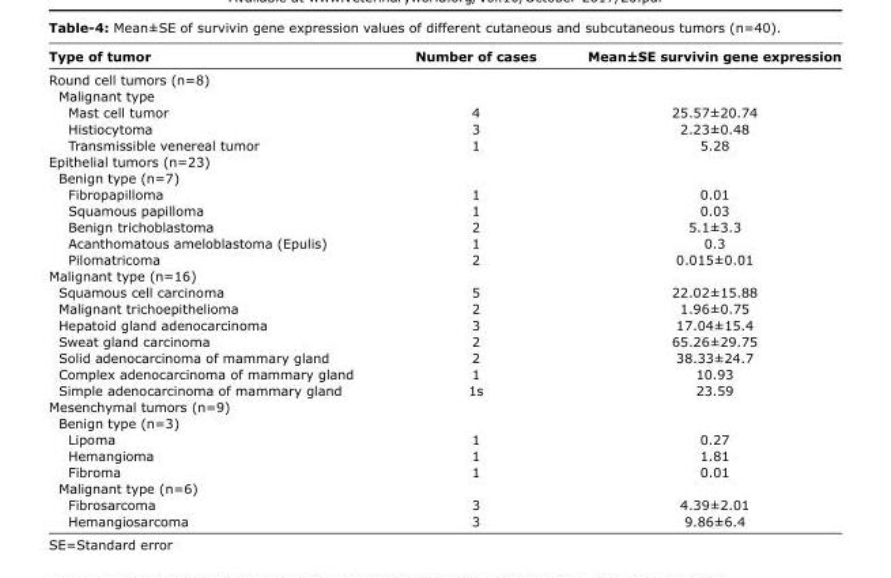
<table><thead><tr><td>Type of tumor</td><td>Number of cases</td><td>Mean±SE survivin gene expression</td></tr></thead><tbody><tr><td colspan="3">Round cell tumors (n=8)</td></tr><tr><td colspan="3">Malignant type</td></tr><tr><td>Mast cell tumor</td><td>4</td><td>25.57±20.74</td></tr><tr><td>Histiocytoma</td><td>3</td><td>2.23±0.48</td></tr><tr><td>Transmissible venereal tumor</td><td>1</td><td>5.28</td></tr><tr><td colspan="3">Epithelial tumors (n=23)</td></tr><tr><td colspan="3">Benign type (n=7)</td></tr><tr><td>Fibropapilloma</td><td>1</td><td>0.01</td></tr><tr><td>Squamous papilloma</td><td>1</td><td>0.03</td></tr><tr><td>Benign trichoblastoma</td><td>2</td><td>5.1±3.3</td></tr><tr><td>Acanthomatous ameloblastoma (Epulis)</td><td>1</td><td>0.3</td></tr><tr><td>Pilomatricoma</td><td>2</td><td>0.015±0.01</td></tr><tr><td colspan="3">Malignant type (n=16)</td></tr><tr><td>Squamous cell carcinoma</td><td>5</td><td>22.02±15.88</td></tr><tr><td>Malignant trichoepithelioma</td><td>2</td><td>1.96±0.75</td></tr><tr><td>Hepatoid gland adenocarcinoma</td><td>3</td><td>17.04±15.4</td></tr><tr><td>Sweat gland carcinoma</td><td>2</td><td>65.26±29.75</td></tr><tr><td>Solid adenocarcinoma of mammary gland</td><td>2</td><td>38.33±24.7</td></tr><tr><td>Complex adenocarcinoma of mammary gland</td><td>1</td><td>10.93</td></tr><tr><td>Simple adenocarcinoma of mammary gland</td><td>1s</td><td>23.59</td></tr><tr><td colspan="3">Mesenchymal tumors (n=9)</td></tr><tr><td colspan="3">Benign type (n=3)</td></tr><tr><td>Lipoma</td><td>1</td><td>0.27</td></tr><tr><td>Hemangioma</td><td>1</td><td>1.81</td></tr><tr><td>Fibroma</td><td>1</td><td>0.01</td></tr><tr><td colspan="3">Malignant type (n=6)</td></tr><tr><td>Fibrosarcoma</td><td>3</td><td>4.39±2.01</td></tr><tr><td>Hemangiosarcoma</td><td>3</td><td>9.86±6.4</td></tr></tbody></table>